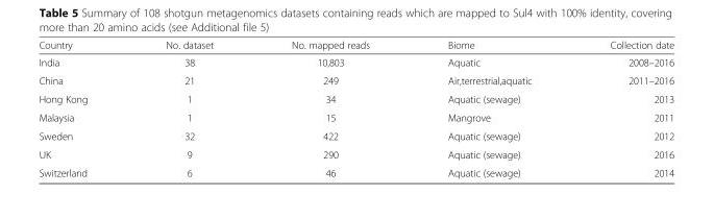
<table><thead><tr><td>Country</td><td>No. dataset</td><td>No. mapped reads</td><td>Biome</td><td>Collection date</td></tr></thead><tbody><tr><td>India</td><td>38</td><td>10,803</td><td>Aquatic</td><td>2008–2016</td></tr><tr><td>China</td><td>21</td><td>249</td><td>Air,terrestrial,aquatic</td><td>2011–2016</td></tr><tr><td>Hong Kong</td><td>1</td><td>34</td><td>Aquatic (sewage)</td><td>2013</td></tr><tr><td>Malaysia</td><td>1</td><td>15</td><td>Mangrove</td><td>2011</td></tr><tr><td>Sweden</td><td>32</td><td>422</td><td>Aquatic (sewage)</td><td>2012</td></tr><tr><td>UK</td><td>9</td><td>290</td><td>Aquatic (sewage)</td><td>2016</td></tr><tr><td>Switzerland</td><td>6</td><td>46</td><td>Aquatic (sewage)</td><td>2014</td></tr></tbody></table>